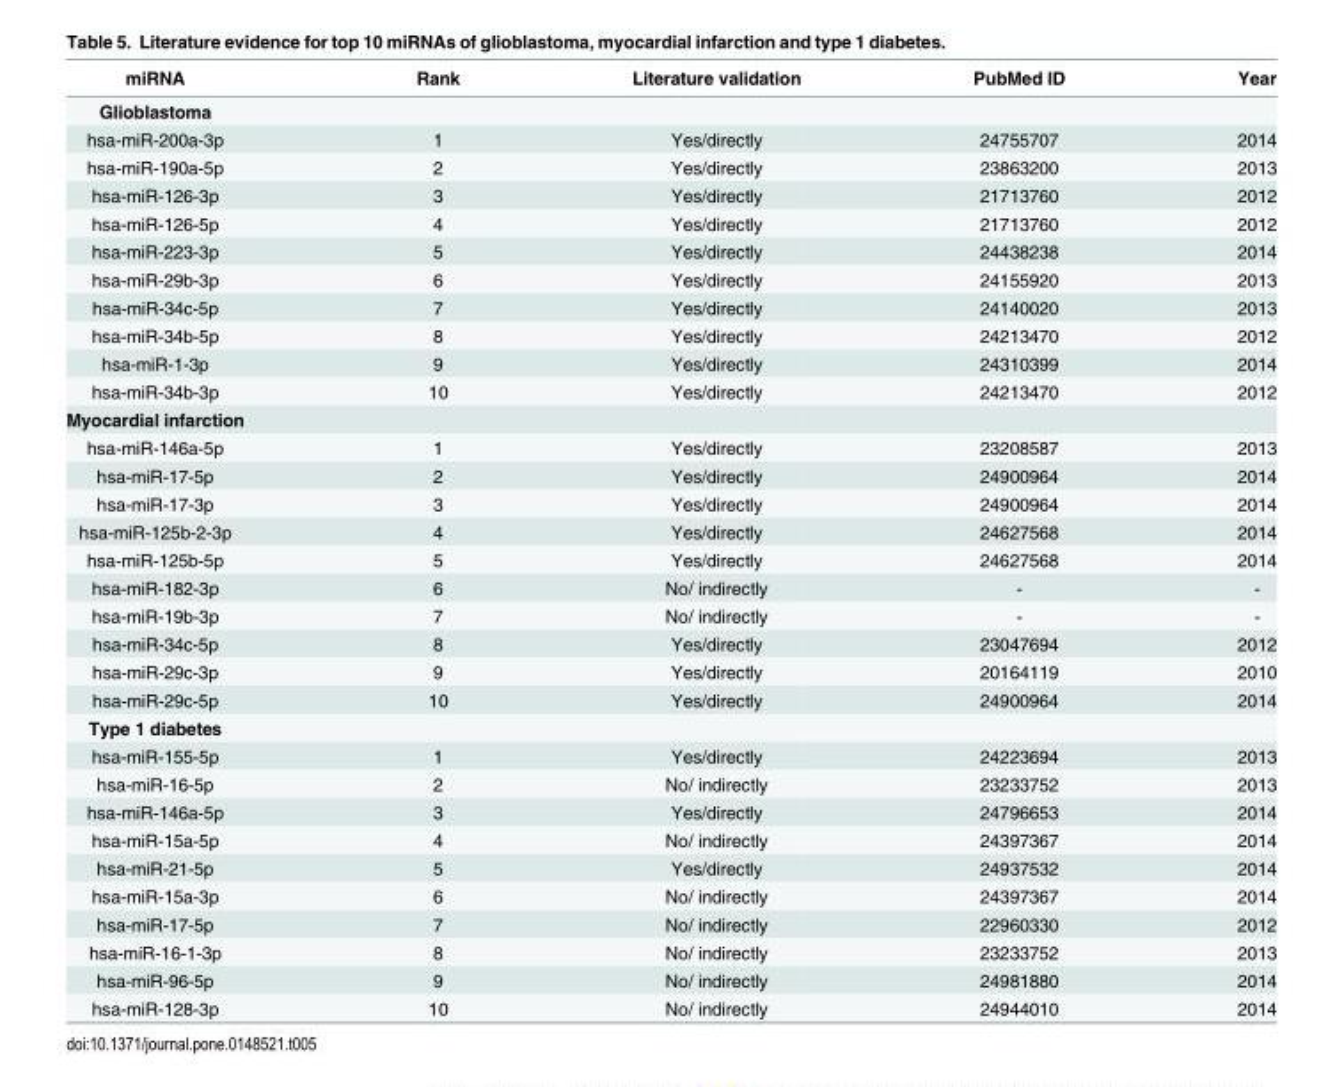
<table><thead><tr><td>miRNA</td><td>Rank</td><td>Literature validation</td><td>PubMed ID</td><td>Year</td></tr></thead><tbody><tr><td colspan="5">Glioblastoma</td></tr><tr><td>hsa-miR-200a-3p</td><td>1</td><td>Yes/directly</td><td>24755707</td><td>2014</td></tr><tr><td>hsa-miR-190a-5p</td><td>2</td><td>Yes/directly</td><td>23863200</td><td>2013</td></tr><tr><td>hsa-miR-126-3p</td><td>3</td><td>Yes/directly</td><td>21713760</td><td>2012</td></tr><tr><td>hsa-miR-126-5p</td><td>4</td><td>Yes/directly</td><td>21713760</td><td>2012</td></tr><tr><td>hsa-miR-223-3p</td><td>5</td><td>Yes/directly</td><td>24438238</td><td>2014</td></tr><tr><td>hsa-miR-29b-3p</td><td>6</td><td>Yes/directly</td><td>24155920</td><td>2013</td></tr><tr><td>hsa-miR-34c-5p</td><td>7</td><td>Yes/directly</td><td>24140020</td><td>2013</td></tr><tr><td>hsa-miR-34b-5p</td><td>8</td><td>Yes/directly</td><td>24213470</td><td>2012</td></tr><tr><td>hsa-miR-1-3p</td><td>9</td><td>Yes/directly</td><td>24310399</td><td>2014</td></tr><tr><td>hsa-miR-34b-3p</td><td>10</td><td>Yes/directly</td><td>24213470</td><td>2012</td></tr><tr><td colspan="5">Myocardial infarction</td></tr><tr><td>hsa-miR-146a-5p</td><td>1</td><td>Yes/directly</td><td>23208587</td><td>2013</td></tr><tr><td>hsa-miR-17-5p</td><td>2</td><td>Yes/directly</td><td>24900964</td><td>2014</td></tr><tr><td>hsa-miR-17-3p</td><td>3</td><td>Yes/directly</td><td>24900964</td><td>2014</td></tr><tr><td>hsa-miR-125b-2-3p</td><td>4</td><td>Yes/directly</td><td>24627568</td><td>2014</td></tr><tr><td>hsa-miR-125b-5p</td><td>5</td><td>Yes/directly</td><td>24627568</td><td>2014</td></tr><tr><td>hsa-miR-182-3p</td><td>6</td><td>No/ indirectly</td><td>-</td><td>-</td></tr><tr><td>hsa-miR-19b-3p</td><td>7</td><td>No/ indirectly</td><td>-</td><td>-</td></tr><tr><td>hsa-miR-34c-5p</td><td>8</td><td>Yes/directly</td><td>23047694</td><td>2012</td></tr><tr><td>hsa-miR-29c-3p</td><td>9</td><td>Yes/directly</td><td>20164119</td><td>2010</td></tr><tr><td>hsa-miR-29c-5p</td><td>10</td><td>Yes/directly</td><td>24900964</td><td>2014</td></tr><tr><td colspan="5">Type 1 diabetes</td></tr><tr><td>hsa-miR-155-5p</td><td>1</td><td>Yes/directly</td><td>24223694</td><td>2013</td></tr><tr><td>hsa-miR-16-5p</td><td>2</td><td>No/ indirectly</td><td>23233752</td><td>2013</td></tr><tr><td>hsa-miR-146a-5p</td><td>3</td><td>Yes/directly</td><td>24796653</td><td>2014</td></tr><tr><td>hsa-miR-15a-5p</td><td>4</td><td>No/ indirectly</td><td>24397367</td><td>2014</td></tr><tr><td>hsa-miR-21-5p</td><td>5</td><td>Yes/directly</td><td>24937532</td><td>2014</td></tr><tr><td>hsa-miR-15a-3p</td><td>6</td><td>No/ indirectly</td><td>24397367</td><td>2014</td></tr><tr><td>hsa-miR-17-5p</td><td>7</td><td>No/ indirectly</td><td>22960330</td><td>2012</td></tr><tr><td>hsa-miR-16-1-3p</td><td>8</td><td>No/ indirectly</td><td>23233752</td><td>2013</td></tr><tr><td>hsa-miR-96-5p</td><td>9</td><td>No/ indirectly</td><td>24981880</td><td>2014</td></tr><tr><td>hsa-miR-128-3p</td><td>10</td><td>No/ indirectly</td><td>24944010</td><td>2014</td></tr></tbody></table>